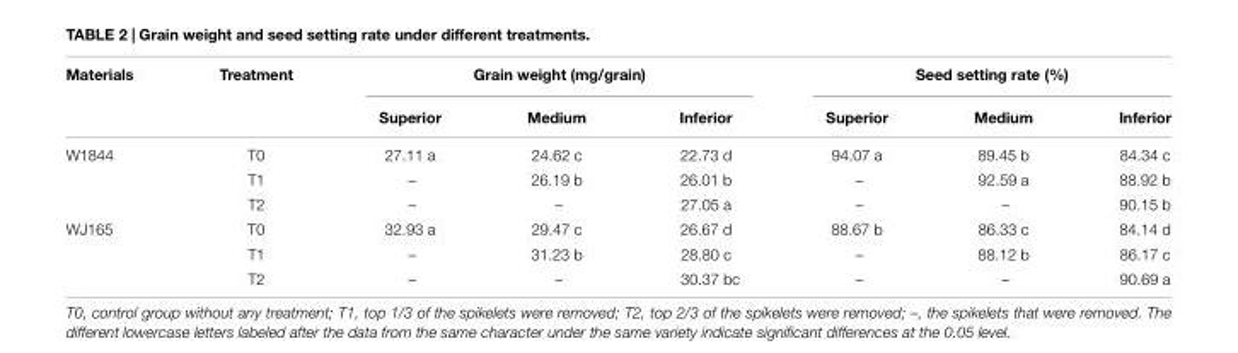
<table><thead><tr><td rowspan="2">Materials</td><td rowspan="2">Treatment</td><td colspan="3">Grain weight (mg/grain)</td><td colspan="3">Seed setting rate (%)</td></tr><tr><td>Superior</td><td>Medium</td><td>Inferior</td><td>Superior</td><td>Medium</td><td>Inferior</td></tr></thead><tbody><tr><td rowspan="3">W1844</td><td>T0</td><td>27.11 a</td><td>24.62 c</td><td>22.73 d</td><td>94.07 a</td><td>89.45 b</td><td>84.34 c</td></tr><tr><td>T1</td><td>–</td><td>26.19 b</td><td>26.01 b</td><td>–</td><td>92.59 a</td><td>88.92 b</td></tr><tr><td>T2</td><td>–</td><td>–</td><td>27.05 a</td><td>–</td><td>–</td><td>90.15 b</td></tr><tr><td rowspan="3">WJ165</td><td>T0</td><td>32.93 a</td><td>29.47 c</td><td>26.67 d</td><td>88.67 b</td><td>86.33 c</td><td>84.14 d</td></tr><tr><td>T1</td><td>–</td><td>31.23 b</td><td>28.80 c</td><td>–</td><td>88.12 b</td><td>86.17 c</td></tr><tr><td>T2</td><td>–</td><td>–</td><td>30.37 bc</td><td>–</td><td>–</td><td>90.69 a</td></tr></tbody></table>